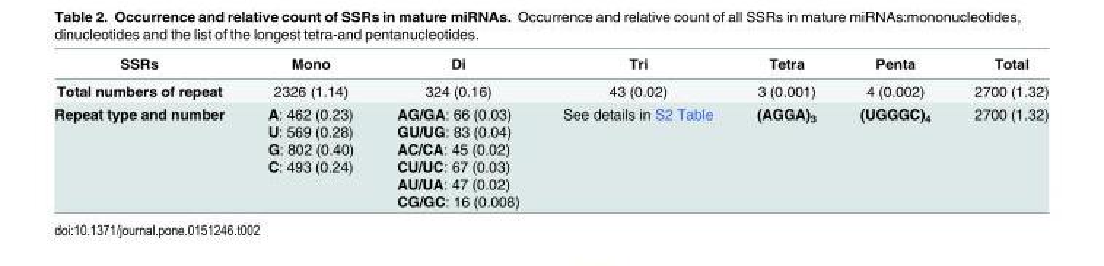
<table><thead><tr><td>SSRs</td><td>Mono</td><td>Di</td><td>Tri</td><td>Tetra</td><td>Penta</td><td>Total</td></tr></thead><tbody><tr><td>Total numbers of repeat</td><td>2326 (1.14)</td><td>324 (0.16)</td><td>43 (0.02)</td><td>3 (0.001)</td><td>4 (0.002)</td><td>2700 (1.32)</td></tr><tr><td>Repeat type and number</td><td>A: 462 (0.23) U: 569 (0.28) G: 802 (0.40) C: 493 (0.24)</td><td>AG/GA: 66 (0.03) GU/UG: 83 (0.04) AC/CA: 45 (0.02) CU/UC: 67 (0.03) AU/UA: 47 (0.02) CG/GC: 16 (0.008)</td><td>See details in S2 Table</td><td>(AGGA)<sub>3</sub></td><td>(UGGGC)<sub>4</sub></td><td>2700 (1.32)</td></tr></tbody></table>